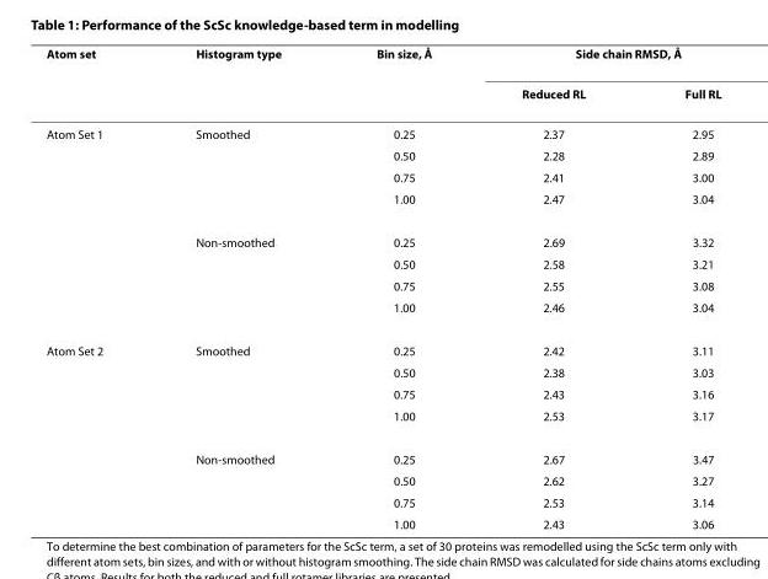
<table><thead><tr><td rowspan="2">Atom set</td><td rowspan="2">Histogram type</td><td rowspan="2">Bin size, Å</td><td colspan="2">Side chain RMSD, Å</td></tr><tr><td>Reduced RL</td><td>Full RL</td></tr></thead><tbody><tr><td rowspan="8">Atom Set 1</td><td>Smoothed</td><td>0.25</td><td>2.37</td><td>2.95</td></tr><tr><td></td><td>0.50</td><td>2.28</td><td>2.89</td></tr><tr><td></td><td>0.75</td><td>2.41</td><td>3.00</td></tr><tr><td></td><td>1.00</td><td>2.47</td><td>3.04</td></tr><tr><td>Non-smoothed</td><td>0.25</td><td>2.69</td><td>3.32</td></tr><tr><td></td><td>0.50</td><td>2.58</td><td>3.21</td></tr><tr><td></td><td>0.75</td><td>2.55</td><td>3.08</td></tr><tr><td></td><td>1.00</td><td>2.46</td><td>3.04</td></tr><tr><td rowspan="8">Atom Set 2</td><td>Smoothed</td><td>0.25</td><td>2.42</td><td>3.11</td></tr><tr><td></td><td>0.50</td><td>2.38</td><td>3.03</td></tr><tr><td></td><td>0.75</td><td>2.43</td><td>3.16</td></tr><tr><td></td><td>1.00</td><td>2.53</td><td>3.17</td></tr><tr><td>Non-smoothed</td><td>0.25</td><td>2.67</td><td>3.47</td></tr><tr><td></td><td>0.50</td><td>2.62</td><td>3.27</td></tr><tr><td></td><td>0.75</td><td>2.53</td><td>3.14</td></tr><tr><td></td><td>1.00</td><td>2.43</td><td>3.06</td></tr></tbody></table>